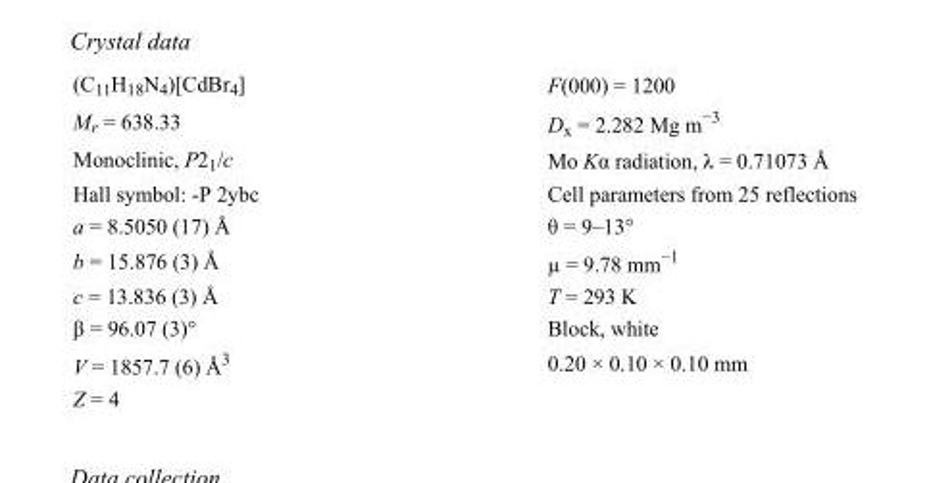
<table><tbody><tr><td>(C<sub>11</sub>H<sub>18</sub>N<sub>4</sub>)[CdBr<sub>4</sub>]</td><td>F(000) = 1200</td></tr><tr><td>M<sub>r</sub> = 638.33</td><td>D<sub>x</sub> = 2.282 Mg m<sup>−3</sup></td></tr><tr><td>Monoclinic, P2<sub>1</sub>/c</td><td>Mo Kα radiation, λ = 0.71073 Å</td></tr><tr><td>Hall symbol: -P 2ybc</td><td>Cell parameters from 25 reflections</td></tr><tr><td>a = 8.5050 (17) Å</td><td>θ = 9–13°</td></tr><tr><td>b = 15.876 (3) Å</td><td>µ = 9.78 mm<sup>−1</sup></td></tr><tr><td>c = 13.836 (3) Å</td><td>T = 293 K</td></tr><tr><td>β = 96.07 (3)°</td><td>Block, white</td></tr><tr><td>V = 1857.7 (6) Å<sup>3</sup></td><td>0.20 × 0.10 × 0.10 mm</td></tr><tr><td>Z = 4</td><td></td></tr></tbody></table>